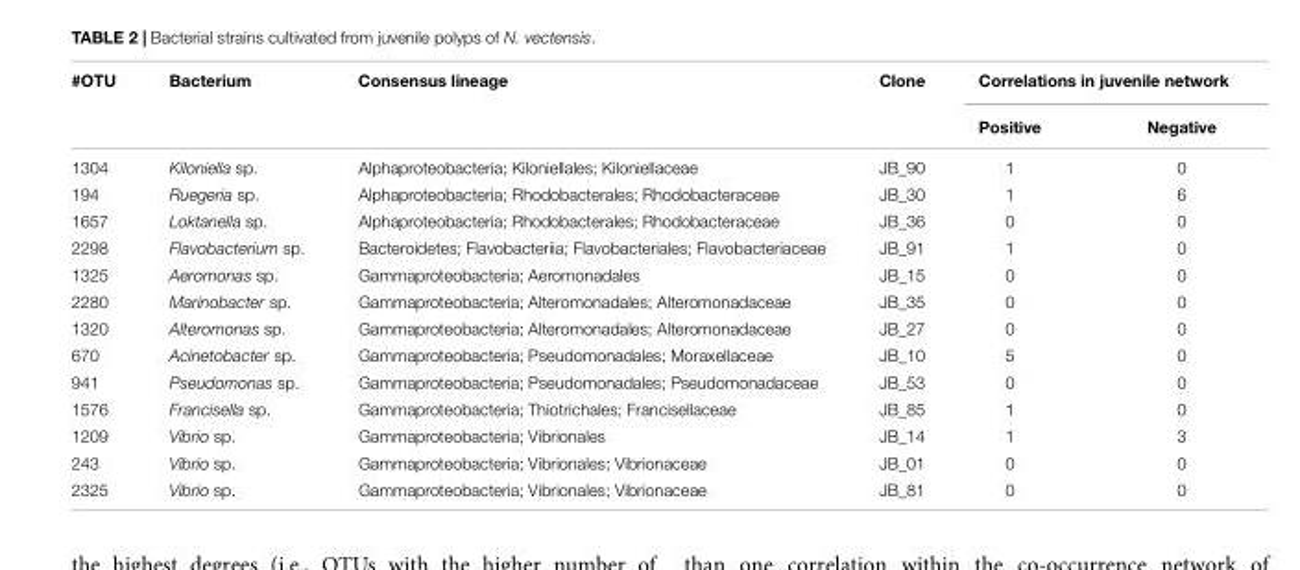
<table><thead><tr><td rowspan="2">#OTU</td><td rowspan="2">Bacterium</td><td rowspan="2">Consensus lineage</td><td rowspan="2">Clone</td><td colspan="2">Correlations in juvenile network</td></tr><tr><td>Positive</td><td>Negative</td></tr></thead><tbody><tr><td>1304</td><td>Kiloniella sp.</td><td>Alphaproteobacteria; Kiloniellales; Kiloniellaceae</td><td>JB_90</td><td>1</td><td>0</td></tr><tr><td>194</td><td>Ruegeria sp.</td><td>Alphaproteobacteria; Rhodobacterales; Rhodobacteraceae</td><td>JB_30</td><td>1</td><td>6</td></tr><tr><td>1657</td><td>Loktanella sp.</td><td>Alphaproteobacteria; Rhodobacterales; Rhodobacteraceae</td><td>JB_36</td><td>0</td><td>0</td></tr><tr><td>2298</td><td>Flavobacterium sp.</td><td>Bacteroidetes; Flavobacteriia; Flavobacteriales; Flavobacteriaceae</td><td>JB_91</td><td>1</td><td>0</td></tr><tr><td>1325</td><td>Aeromonas sp.</td><td>Gammaproteobacteria; Aeromonadales</td><td>JB_15</td><td>0</td><td>0</td></tr><tr><td>2280</td><td>Marinobacter sp.</td><td>Gammaproteobacteria; Alteromonadales; Alteromonadaceae</td><td>JB_35</td><td>0</td><td>0</td></tr><tr><td>1320</td><td>Alteromonas sp.</td><td>Gammaproteobacteria; Alteromonadales; Alteromonadaceae</td><td>JB_27</td><td>0</td><td>0</td></tr><tr><td>670</td><td>Acinetobacter sp.</td><td>Gammaproteobacteria; Pseudomonadales; Moraxellaceae</td><td>JB_10</td><td>5</td><td>0</td></tr><tr><td>941</td><td>Pseudomonas sp.</td><td>Gammaproteobacteria; Pseudomonadales; Pseudomonadaceae</td><td>JB_53</td><td>0</td><td>0</td></tr><tr><td>1576</td><td>Francisella sp.</td><td>Gammaproteobacteria; Thiotrichales; Francisellaceae</td><td>JB_85</td><td>1</td><td>0</td></tr><tr><td>1209</td><td>Vibrio sp.</td><td>Gammaproteobacteria; Vibrionales</td><td>JB_14</td><td>1</td><td>3</td></tr><tr><td>243</td><td>Vibrio sp.</td><td>Gammaproteobacteria; Vibrionales; Vibrionaceae</td><td>JB_01</td><td>0</td><td>0</td></tr><tr><td>2325</td><td>Vibrio sp.</td><td>Gammaproteobacteria; Vibrionales; Vibrionaceae</td><td>JB_81</td><td>0</td><td>0</td></tr></tbody></table>